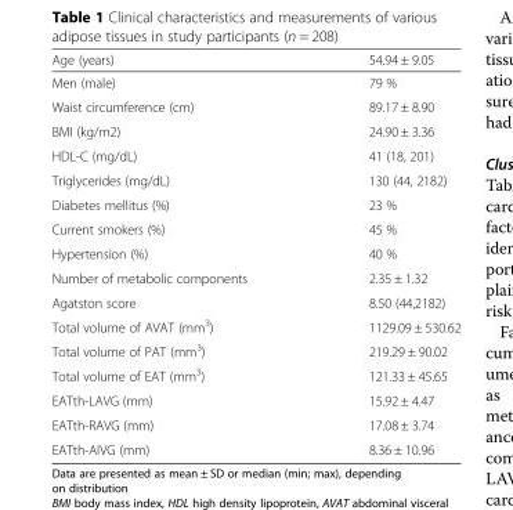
<table><thead><tr><td>Age (years)</td><td>54.94 ± 9.05</td></tr></thead><tbody><tr><td>Men (male)</td><td>79 %</td></tr><tr><td>Waist circumference (cm)</td><td>89.17 ± 8.90</td></tr><tr><td>BMI (kg/m2)</td><td>24.90 ± 3.36</td></tr><tr><td>HDL-C (mg/dL)</td><td>41 (18, 201)</td></tr><tr><td>Triglycerides (mg/dL)</td><td>130 (44, 2182)</td></tr><tr><td>Diabetes mellitus (%)</td><td>23 %</td></tr><tr><td>Current smokers (%)</td><td>45 %</td></tr><tr><td>Hypertension (%)</td><td>40 %</td></tr><tr><td>Number of metabolic components</td><td>2.35 ± 1.32</td></tr><tr><td>Agatston score</td><td>8.50 (44,2182)</td></tr><tr><td>Total volume of AVAT (mm<sup>3</sup>)</td><td>1129.09 ± 530.62</td></tr><tr><td>Total volume of PAT (mm<sup>3</sup>)</td><td>219.29 ± 90.02</td></tr><tr><td>Total volume of EAT (mm<sup>3</sup>)</td><td>121.33 ± 45.65</td></tr><tr><td>EATth-LAVG (mm)</td><td>15.92 ± 4.47</td></tr><tr><td>EATth-RAVG (mm)</td><td>17.08 ± 3.74</td></tr><tr><td>EATth-AIVG (mm)</td><td>8.36 ± 10.96</td></tr></tbody></table>